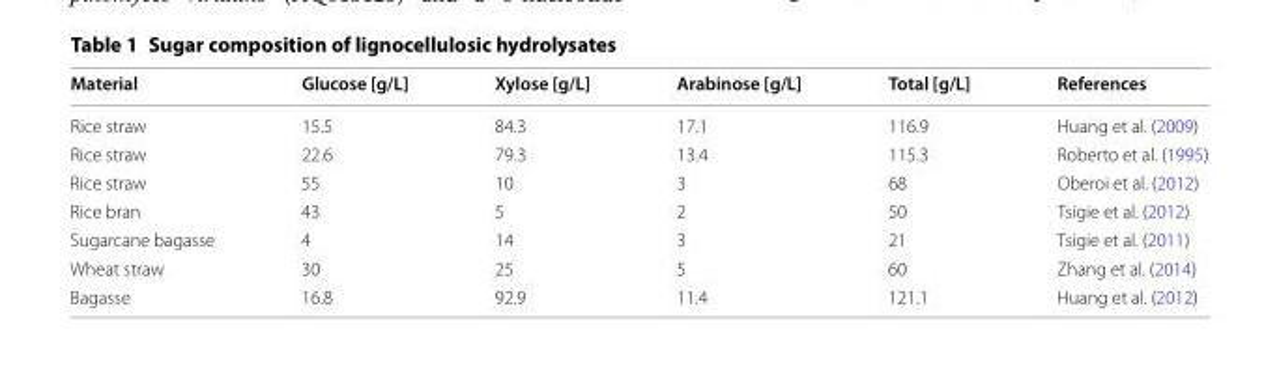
<table><thead><tr><td>Material</td><td>Glucose [g/L]</td><td>Xylose [g/L]</td><td>Arabinose [g/L]</td><td>Total [g/L]</td><td>References</td></tr></thead><tbody><tr><td>Rice straw</td><td>15.5</td><td>84.3</td><td>17.1</td><td>116.9</td><td>Huang et al. (2009)</td></tr><tr><td>Rice straw</td><td>22.6</td><td>79.3</td><td>13.4</td><td>115.3</td><td>Roberto et al. (1995)</td></tr><tr><td>Rice straw</td><td>55</td><td>10</td><td>3</td><td>68</td><td>Oberoi et al. (2012)</td></tr><tr><td>Rice bran</td><td>43</td><td>5</td><td>2</td><td>50</td><td>Tsigie et al. (2012)</td></tr><tr><td>Sugarcane bagasse</td><td>4</td><td>14</td><td>3</td><td>21</td><td>Tsigie et al. (2011)</td></tr><tr><td>Wheat straw</td><td>30</td><td>25</td><td>5</td><td>60</td><td>Zhang et al. (2014)</td></tr><tr><td>Bagasse</td><td>16.8</td><td>92.9</td><td>11.4</td><td>121.1</td><td>Huang et al. (2012)</td></tr></tbody></table>